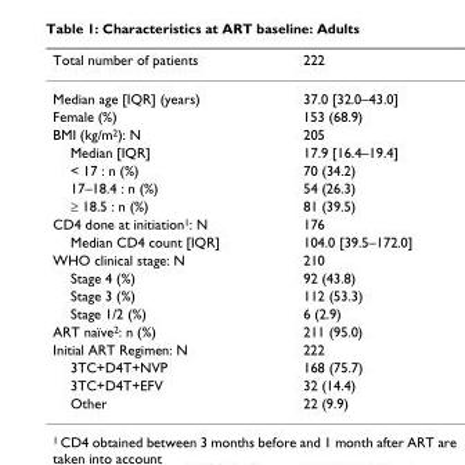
<table><thead><tr><td>Total number of patients</td><td>222</td></tr></thead><tbody><tr><td>Median age [IQR] (years)</td><td>37.0 [32.0–43.0]</td></tr><tr><td>Female (%)</td><td>153 (68.9)</td></tr><tr><td>BMI (kg/m<sup>2</sup>): N</td><td>205</td></tr><tr><td>Median [IQR]</td><td>17.9 [16.4–19.4]</td></tr><tr><td>&lt; 17 : n (%)</td><td>70 (34.2)</td></tr><tr><td>17–18.4 : n (%)</td><td>54 (26.3)</td></tr><tr><td>≥ 18.5 : n (%)</td><td>81 (39.5)</td></tr><tr><td>CD4 done at initiation<sup>1</sup>: N</td><td>176</td></tr><tr><td>Median CD4 count [IQR]</td><td>104.0 [39.5–172.0]</td></tr><tr><td>WHO clinical stage: N</td><td>210</td></tr><tr><td>Stage 4 (%)</td><td>92 (43.8)</td></tr><tr><td>Stage 3 (%)</td><td>112 (53.3)</td></tr><tr><td>Stage 1/2 (%)</td><td>6 (2.9)</td></tr><tr><td>ART naïve<sup>2</sup>: n (%)</td><td>211 (95.0)</td></tr><tr><td>Initial ART Regimen: N</td><td>222</td></tr><tr><td>3TC+D4T+NVP</td><td>168 (75.7)</td></tr><tr><td>3TC+D4T+EFV</td><td>32 (14.4)</td></tr><tr><td>Other</td><td>22 (9.9)</td></tr></tbody></table>